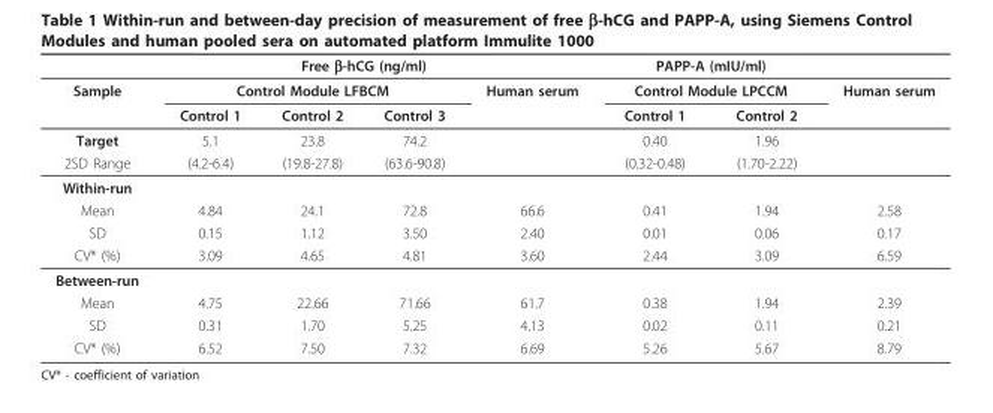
<table><thead><tr><td rowspan="3">Sample</td><td></td><td colspan="2">Free β-hCG (ng/ml)</td><td rowspan="3">Human serum</td><td rowspan="2" colspan="2">PAPP-A (mIU/ml) Control Module LPCCM</td><td rowspan="3">Human serum</td></tr><tr><td colspan="3">Control Module LFBCM</td></tr><tr><td>Control 1</td><td>Control 2</td><td>Control 3</td><td>Control 1</td><td>Control 2</td></tr></thead><tbody><tr><td>Target</td><td>5.1</td><td>23.8</td><td>74.2</td><td></td><td>0.40</td><td>1.96</td><td></td></tr><tr><td>2SD Range</td><td>(4.2-6.4)</td><td>(19.8-27.8)</td><td>(63.6-90.8)</td><td></td><td>(0.32-0.48)</td><td>(1.70-2.22)</td><td></td></tr><tr><td colspan="8">Within-run</td></tr><tr><td>Mean</td><td>4.84</td><td>24.1</td><td>72.8</td><td>66.6</td><td>0.41</td><td>1.94</td><td>2.58</td></tr><tr><td>SD</td><td>0.15</td><td>1.12</td><td>3.50</td><td>2.40</td><td>0.01</td><td>0.06</td><td>0.17</td></tr><tr><td>CV* (%)</td><td>3.09</td><td>4.65</td><td>4.81</td><td>3.60</td><td>2.44</td><td>3.09</td><td>6.59</td></tr><tr><td colspan="8">Between-run</td></tr><tr><td>Mean</td><td>4.75</td><td>22.66</td><td>71.66</td><td>61.7</td><td>0.38</td><td>1.94</td><td>2.39</td></tr><tr><td>SD</td><td>0.31</td><td>1.70</td><td>5.25</td><td>4.13</td><td>0.02</td><td>0.11</td><td>0.21</td></tr><tr><td>CV* (%)</td><td>6.52</td><td>7.50</td><td>7.32</td><td>6.69</td><td>5.26</td><td>5.67</td><td>8.79</td></tr></tbody></table>